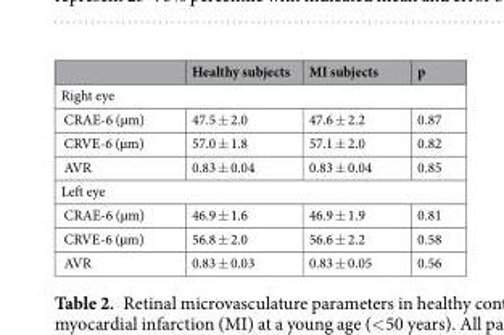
<table><thead><tr><td></td><td>Healthy subjects</td><td>MI subjects</td><td>p</td></tr></thead><tbody><tr><td colspan="4">Right eye</td></tr><tr><td>CRAE-6 (µm)</td><td>47.5 ± 2.0</td><td>47.6 ± 2.2</td><td>0.87</td></tr><tr><td>CRVE-6 (µm)</td><td>57.0 ± 1.8</td><td>57.1 ± 2.0</td><td>0.82</td></tr><tr><td>AVR</td><td>0.83 ± 0.04</td><td>0.83 ± 0.04</td><td>0.85</td></tr><tr><td colspan="4">Left eye</td></tr><tr><td>CRAE-6 (µm)</td><td>46.9 ± 1.6</td><td>46.9 ± 1.9</td><td>0.81</td></tr><tr><td>CRVE-6 (µm)</td><td>56.8 ± 2.0</td><td>56.6 ± 2.2</td><td>0.58</td></tr><tr><td>AVR</td><td>0.83 ± 0.03</td><td>0.83 ± 0.05</td><td>0.56</td></tr></tbody></table>